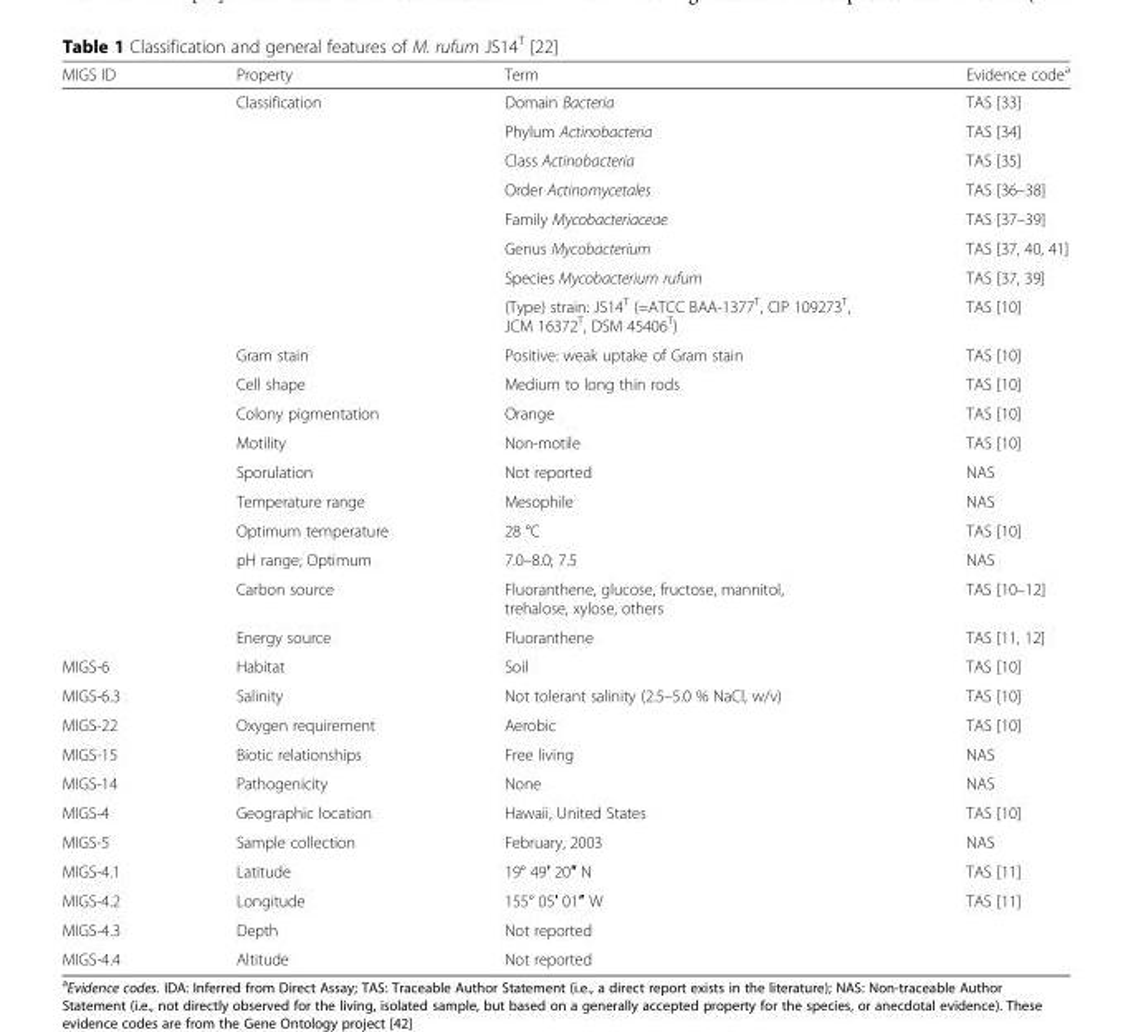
<table><thead><tr><td>MIGS ID</td><td>Property</td><td>Term</td><td>Evidence code<sup>a</sup></td></tr></thead><tbody><tr><td></td><td rowspan="8">Classification</td><td>Domain Bacteria</td><td>TAS [33]</td></tr><tr><td></td><td>Phylum Actinobacteria</td><td>TAS [34]</td></tr><tr><td></td><td>Class Actinobacteria</td><td>TAS [35]</td></tr><tr><td></td><td>Order Actinomycetales</td><td>TAS [36–38]</td></tr><tr><td></td><td>Family Mycobacteriaceae</td><td>TAS [37–39]</td></tr><tr><td></td><td>Genus Mycobacterium</td><td>TAS [37, 40, 41]</td></tr><tr><td></td><td>Species Mycobacterium rufum</td><td>TAS [37, 39]</td></tr><tr><td></td><td>(Type) strain: JS14<sup>T</sup> (=ATCC BAA-1377<sup>T</sup>, CIP 109273<sup>T</sup>, JCM 16372<sup>T</sup>, DSM 45406<sup>T</sup>)</td><td>TAS [10]</td></tr><tr><td></td><td>Gram stain</td><td>Positive: weak uptake of Gram stain</td><td>TAS [10]</td></tr><tr><td></td><td>Cell shape</td><td>Medium to long thin rods</td><td>TAS [10]</td></tr><tr><td></td><td>Colony pigmentation</td><td>Orange</td><td>TAS [10]</td></tr><tr><td></td><td>Motility</td><td>Non-motile</td><td>TAS [10]</td></tr><tr><td></td><td>Sporulation</td><td>Not reported</td><td>NAS</td></tr><tr><td></td><td>Temperature range</td><td>Mesophile</td><td>NAS</td></tr><tr><td></td><td>Optimum temperature</td><td>28 °C</td><td>TAS [10]</td></tr><tr><td></td><td>pH range; Optimum</td><td>7.0–8.0; 7.5</td><td>NAS</td></tr><tr><td></td><td>Carbon source</td><td>Fluoranthene, glucose, fructose, mannitol, trehalose, xylose, others</td><td>TAS [10–12]</td></tr><tr><td></td><td>Energy source</td><td>Fluoranthene</td><td>TAS [11, 12]</td></tr><tr><td>MIGS-6</td><td>Habitat</td><td>Soil</td><td>TAS [10]</td></tr><tr><td>MIGS-6.3</td><td>Salinity</td><td>Not tolerant salinity (2.5–5.0 % NaCl, w/v)</td><td>TAS [10]</td></tr><tr><td>MIGS-22</td><td>Oxygen requirement</td><td>Aerobic</td><td>TAS [10]</td></tr><tr><td>MIGS-15</td><td>Biotic relationships</td><td>Free living</td><td>NAS</td></tr><tr><td>MIGS-14</td><td>Pathogenicity</td><td>None</td><td>NAS</td></tr><tr><td>MIGS-4</td><td>Geographic location</td><td>Hawaii, United States</td><td>TAS [10]</td></tr><tr><td>MIGS-5</td><td>Sample collection</td><td>February, 2003</td><td>NAS</td></tr><tr><td>MIGS-4.1</td><td>Latitude</td><td>19° 49′ 20″ N</td><td>TAS [11]</td></tr><tr><td>MIGS-4.2</td><td>Longitude</td><td>155° 05′ 01″ W</td><td>TAS [11]</td></tr><tr><td>MIGS-4.3</td><td>Depth</td><td>Not reported</td><td></td></tr><tr><td>MIGS-4.4</td><td>Altitude</td><td>Not reported</td><td></td></tr></tbody></table>